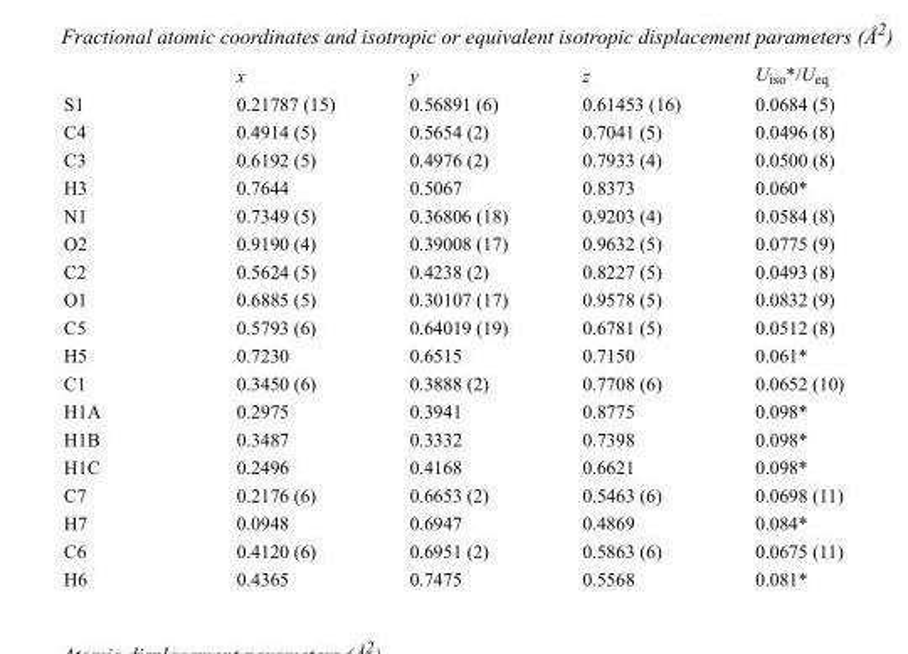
<table><thead><tr><td></td><td>x</td><td>y</td><td>z</td><td>U<sub>iso</sub>*/U<sub>eq</sub></td></tr></thead><tbody><tr><td>S1</td><td>0.21787 (15)</td><td>0.56891 (6)</td><td>0.61453 (16)</td><td>0.0684 (5)</td></tr><tr><td>C4</td><td>0.4914 (5)</td><td>0.5654 (2)</td><td>0.7041 (5)</td><td>0.0496 (8)</td></tr><tr><td>C3</td><td>0.6192 (5)</td><td>0.4976 (2)</td><td>0.7933 (4)</td><td>0.0500 (8)</td></tr><tr><td>H3</td><td>0.7644</td><td>0.5067</td><td>0.8373</td><td>0.060*</td></tr><tr><td>N1</td><td>0.7349 (5)</td><td>0.36806 (18)</td><td>0.9203 (4)</td><td>0.0584 (8)</td></tr><tr><td>O2</td><td>0.9190 (4)</td><td>0.39008 (17)</td><td>0.9632 (5)</td><td>0.0775 (9)</td></tr><tr><td>C2</td><td>0.5624 (5)</td><td>0.4238 (2)</td><td>0.8227 (5)</td><td>0.0493 (8)</td></tr><tr><td>O1</td><td>0.6885 (5)</td><td>0.30107 (17)</td><td>0.9578 (5)</td><td>0.0832 (9)</td></tr><tr><td>C5</td><td>0.5793 (6)</td><td>0.64019 (19)</td><td>0.6781 (5)</td><td>0.0512 (8)</td></tr><tr><td>H5</td><td>0.7230</td><td>0.6515</td><td>0.7150</td><td>0.061*</td></tr><tr><td>C1</td><td>0.3450 (6)</td><td>0.3888 (2)</td><td>0.7708 (6)</td><td>0.0652 (10)</td></tr><tr><td>H1A</td><td>0.2975</td><td>0.3941</td><td>0.8775</td><td>0.098*</td></tr><tr><td>H1B</td><td>0.3487</td><td>0.3332</td><td>0.7398</td><td>0.098*</td></tr><tr><td>H1C</td><td>0.2496</td><td>0.4168</td><td>0.6621</td><td>0.098*</td></tr><tr><td>C7</td><td>0.2176 (6)</td><td>0.6653 (2)</td><td>0.5463 (6)</td><td>0.0698 (11)</td></tr><tr><td>H7</td><td>0.0948</td><td>0.6947</td><td>0.4869</td><td>0.084*</td></tr><tr><td>C6</td><td>0.4120 (6)</td><td>0.6951 (2)</td><td>0.5863 (6)</td><td>0.0675 (11)</td></tr><tr><td>H6</td><td>0.4365</td><td>0.7475</td><td>0.5568</td><td>0.081*</td></tr></tbody></table>